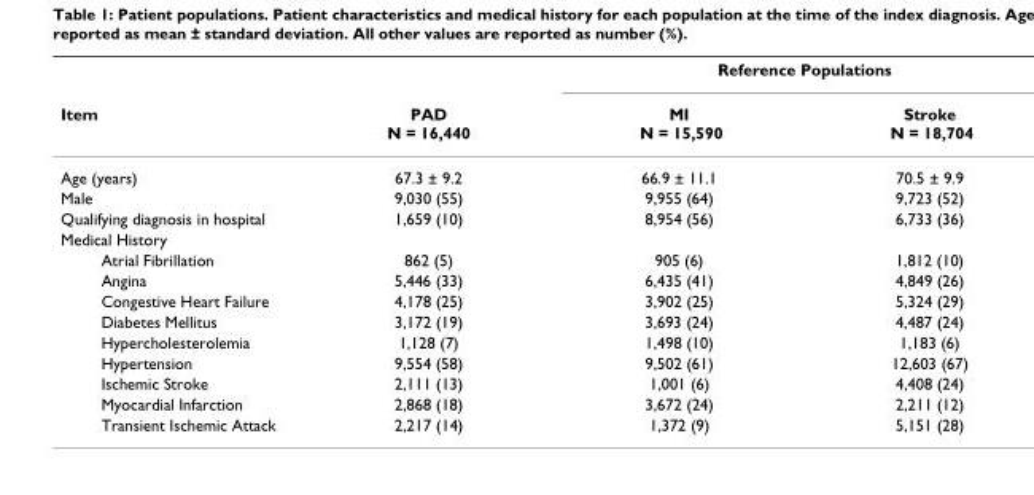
<table><thead><tr><td rowspan="2">Item</td><td rowspan="2">PAD N = 16,440</td><td colspan="2">Reference Populations</td></tr><tr><td>MI N = 15,590</td><td>Stroke N = 18,704</td></tr></thead><tbody><tr><td>Age (years)</td><td>67.3 ± 9.2</td><td>66.9 ± 11.1</td><td>70.5 ± 9.9</td></tr><tr><td>Male</td><td>9,030 (55)</td><td>9,955 (64)</td><td>9,723 (52)</td></tr><tr><td>Qualifying diagnosis in hospital</td><td>1,659 (10)</td><td>8,954 (56)</td><td>6,733 (36)</td></tr><tr><td colspan="4">Medical History</td></tr><tr><td>Atrial Fibrillation</td><td>862 (5)</td><td>905 (6)</td><td>1,812 (10)</td></tr><tr><td>Angina</td><td>5,446 (33)</td><td>6,435 (41)</td><td>4,849 (26)</td></tr><tr><td>Congestive Heart Failure</td><td>4,178 (25)</td><td>3,902 (25)</td><td>5,324 (29)</td></tr><tr><td>Diabetes Mellitus</td><td>3,172 (19)</td><td>3,693 (24)</td><td>4,487 (24)</td></tr><tr><td>Hypercholesterolemia</td><td>1,128 (7)</td><td>1,498 (10)</td><td>1,183 (6)</td></tr><tr><td>Hypertension</td><td>9,554 (58)</td><td>9,502 (61)</td><td>12,603 (67)</td></tr><tr><td>Ischemic Stroke</td><td>2,111 (13)</td><td>1,001 (6)</td><td>4,408 (24)</td></tr><tr><td>Myocardial Infarction</td><td>2,868 (18)</td><td>3,672 (24)</td><td>2,211 (12)</td></tr><tr><td>Transient Ischemic Attack</td><td>2,217 (14)</td><td>1,372 (9)</td><td>5,151 (28)</td></tr></tbody></table>